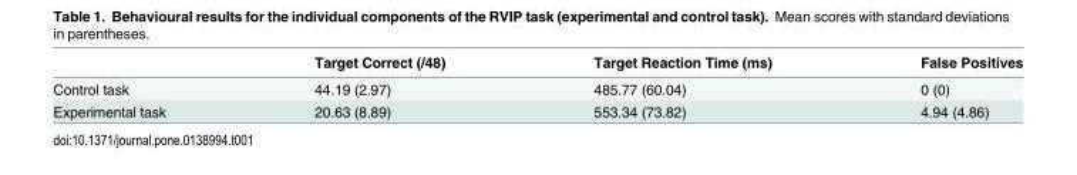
<table><thead><tr><td></td><td>Target Correct (/48)</td><td>Target Reaction Time (ms)</td><td>False Positives</td></tr></thead><tbody><tr><td>Control task</td><td>44.19 (2.97)</td><td>485.77 (60.04)</td><td>0 (0)</td></tr><tr><td>Experimental task</td><td>20.63 (8.89)</td><td>553.34 (73.82)</td><td>4.94 (4.86)</td></tr></tbody></table>